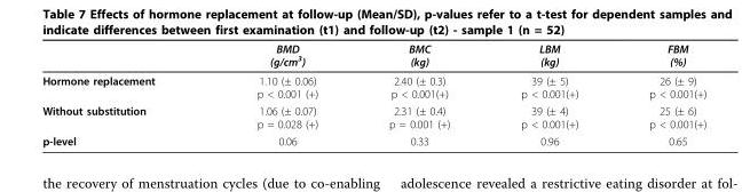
<table><thead><tr><td></td><td>BMD (g/cm<sup>3</sup>)</td><td>BMC (kg)</td><td>LBM (kg)</td><td>FBM (%)</td></tr></thead><tbody><tr><td>Hormone replacement</td><td>1.10 (± 0.06) p &lt; 0.001 (+)</td><td>2.40 (± 0.3) p &lt; 0.001(+)</td><td>39 (± 5) p &lt; 0.001(+)</td><td>26 (± 9) p &lt; 0.001(+)</td></tr><tr><td>Without substitution</td><td>1.06 (± 0.07) p = 0.028 (+)</td><td>2.31 (± 0.4) p = 0.001 (+)</td><td>39 (± 4) p &lt; 0.001(+)</td><td>25 (± 6) p &lt; 0.001(+)</td></tr><tr><td>p-level</td><td>0.06</td><td>0.33</td><td>0.96</td><td>0.65</td></tr></tbody></table>